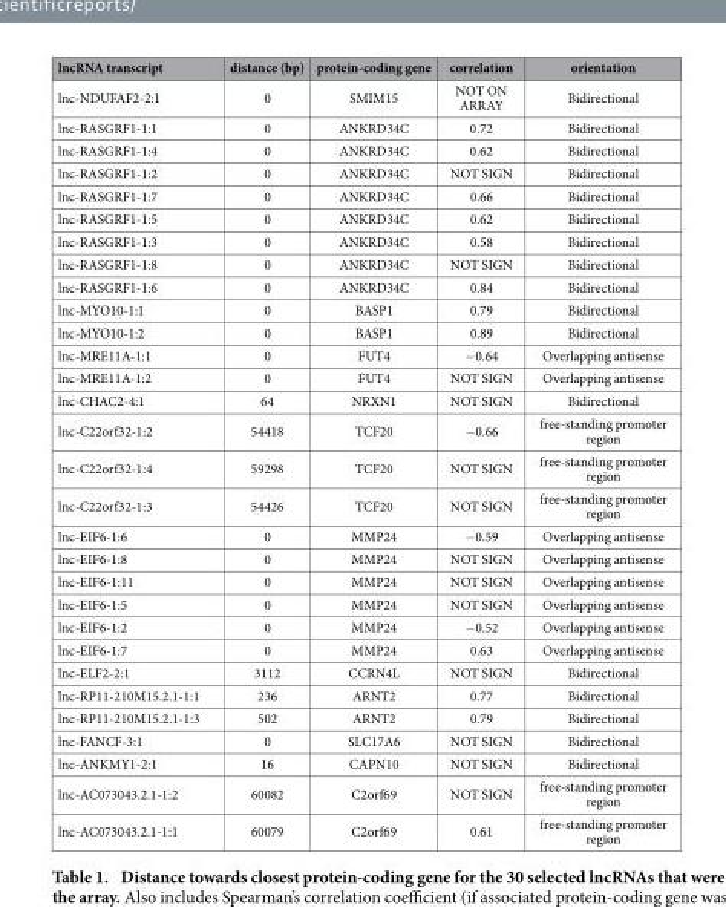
<table><thead><tr><td>lncRNA transcript</td><td>distance (bp)</td><td>protein-coding gene</td><td>correlation</td><td>orientation</td></tr></thead><tbody><tr><td>lnc-NDUFAF2-2:1</td><td>0</td><td>SMIM15</td><td>NOT ON ARRAY</td><td>Bidirectional</td></tr><tr><td>lnc-RASGRF1-1:1</td><td>0</td><td>ANKRD34C</td><td>0.72</td><td>Bidirectional</td></tr><tr><td>lnc-RASGRF1-1:4</td><td>0</td><td>ANKRD34C</td><td>0.62</td><td>Bidirectional</td></tr><tr><td>lnc-RASGRF1-1:2</td><td>0</td><td>ANKRD34C</td><td>NOT SIGN</td><td>Bidirectional</td></tr><tr><td>lnc-RASGRF1-1:7</td><td>0</td><td>ANKRD34C</td><td>0.66</td><td>Bidirectional</td></tr><tr><td>lnc-RASGRF1-1:5</td><td>0</td><td>ANKRD34C</td><td>0.62</td><td>Bidirectional</td></tr><tr><td>lnc-RASGRF1-1:3</td><td>0</td><td>ANKRD34C</td><td>0.58</td><td>Bidirectional</td></tr><tr><td>lnc-RASGRF1-1:8</td><td>0</td><td>ANKRD34C</td><td>NOT SIGN</td><td>Bidirectional</td></tr><tr><td>lnc-RASGRF1-1:6</td><td>0</td><td>ANKRD34C</td><td>0.84</td><td>Bidirectional</td></tr><tr><td>lnc-MYO10-1:1</td><td>0</td><td>BASP1</td><td>0.79</td><td>Bidirectional</td></tr><tr><td>lnc-MYO10-1:2</td><td>0</td><td>BASP1</td><td>0.89</td><td>Bidirectional</td></tr><tr><td>lnc-MRE11A-1:1</td><td>0</td><td>FUT4</td><td>− 0.64</td><td>Overlapping antisense</td></tr><tr><td>lnc-MRE11A-1:2</td><td>0</td><td>FUT4</td><td>NOT SIGN</td><td>Overlapping antisense</td></tr><tr><td>lnc-CHAC2-4:1</td><td>64</td><td>NRXN1</td><td>NOT SIGN</td><td>Bidirectional</td></tr><tr><td>lnc-C22orf32-1:2</td><td>54418</td><td>TCF20</td><td>− 0.66</td><td>free-standing promoter region</td></tr><tr><td>lnc-C22orf32-1:4</td><td>59298</td><td>TCF20</td><td>NOT SIGN</td><td>free-standing promoter region</td></tr><tr><td>lnc-C22orf32-1:3</td><td>54426</td><td>TCF20</td><td>NOT SIGN</td><td>free-standing promoter region</td></tr><tr><td>lnc-EIF6-1:6</td><td>0</td><td>MMP24</td><td>− 0.59</td><td>Overlapping antisense</td></tr><tr><td>lnc-EIF6-1:8</td><td>0</td><td>MMP24</td><td>NOT SIGN</td><td>Overlapping antisense</td></tr><tr><td>lnc-EIF6-1:11</td><td>0</td><td>MMP24</td><td>NOT SIGN</td><td>Overlapping antisense</td></tr><tr><td>lnc-EIF6-1:5</td><td>0</td><td>MMP24</td><td>NOT SIGN</td><td>Overlapping antisense</td></tr><tr><td>lnc-EIF6-1:2</td><td>0</td><td>MMP24</td><td>− 0.52</td><td>Overlapping antisense</td></tr><tr><td>lnc-EIF6-1:7</td><td>0</td><td>MMP24</td><td>0.63</td><td>Overlapping antisense</td></tr><tr><td>lnc-ELF2-2:1</td><td>3112</td><td>CCRN4L</td><td>NOT SIGN</td><td>Bidirectional</td></tr><tr><td>lnc-RP11-210M15.2.1-1:1</td><td>236</td><td>ARNT2</td><td>0.77</td><td>Bidirectional</td></tr><tr><td>lnc-RP11-210M15.2.1-1:3</td><td>502</td><td>ARNT2</td><td>0.79</td><td>Bidirectional</td></tr><tr><td>lnc-FANCF-3:1</td><td>0</td><td>SLC17A6</td><td>NOT SIGN</td><td>Bidirectional</td></tr><tr><td>lnc-ANKMY1-2:1</td><td>16</td><td>CAPN10</td><td>NOT SIGN</td><td>Bidirectional</td></tr><tr><td>lnc-AC073043.2.1-1:2</td><td>60082</td><td>C2orf69</td><td>NOT SIGN</td><td>free-standing promoter region</td></tr><tr><td>lnc-AC073043.2.1-1:1</td><td>60079</td><td>C2orf69</td><td>0.61</td><td>free-standing promoter region</td></tr></tbody></table>